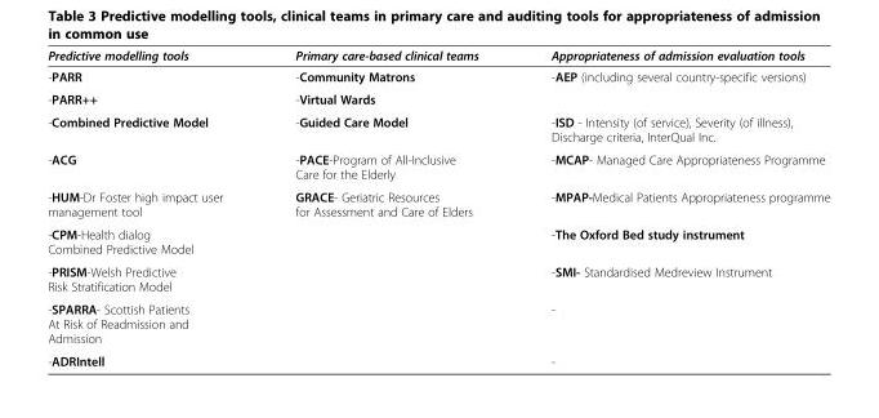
<table><thead><tr><td>Predictive modelling tools</td><td>Primary care-based clinical teams</td><td>Appropriateness of admission evaluation tools</td></tr></thead><tbody><tr><td>-PARR</td><td>-Community Matrons</td><td>-AEP (including several country-specific versions)</td></tr><tr><td>-PARR++</td><td>-Virtual Wards</td><td></td></tr><tr><td>-Combined Predictive Model</td><td>-Guided Care Model</td><td>-ISD - Intensity (of service), Severity (of illness), Discharge criteria, InterQual Inc.</td></tr><tr><td>-ACG</td><td>-PACE-Program of All-Inclusive Care for the Elderly</td><td>-MCAP- Managed Care Appropriateness Programme</td></tr><tr><td>-HUM-Dr Foster high impact user management tool</td><td>GRACE- Geriatric Resources for Assessment and Care of Elders</td><td>-MPAP-Medical Patients Appropriateness programme</td></tr><tr><td>-CPM-Health dialog Combined Predictive Model</td><td></td><td>-The Oxford Bed study instrument</td></tr><tr><td>-PRISM-Welsh Predictive Risk Stratification Model</td><td></td><td>-SMI- Standardised Medreview Instrument</td></tr><tr><td>-SPARRA- Scottish Patients At Risk of Readmission and Admission</td><td></td><td>-</td></tr><tr><td>-ADRIntell</td><td></td><td>-</td></tr></tbody></table>